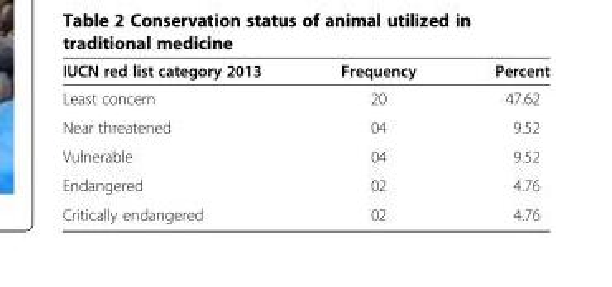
<table><thead><tr><td>IUCN red list category 2013</td><td>Frequency</td><td>Percent</td></tr></thead><tbody><tr><td>Least concern</td><td>20</td><td>47.62</td></tr><tr><td>Near threatened</td><td>04</td><td>9.52</td></tr><tr><td>Vulnerable</td><td>04</td><td>9.52</td></tr><tr><td>Endangered</td><td>02</td><td>4.76</td></tr><tr><td>Critically endangered</td><td>02</td><td>4.76</td></tr></tbody></table>